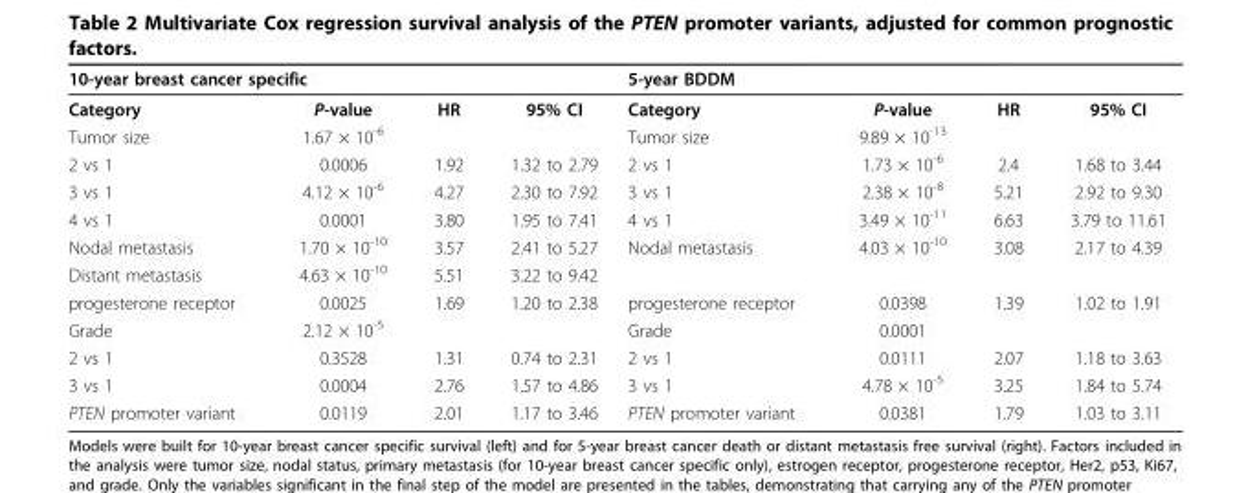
<table><thead><tr><td colspan="2">10-year breast cancer specific</td><td rowspan="2">HR</td><td rowspan="2">95% CI</td><td rowspan="2">5-year BDDM Category</td><td rowspan="2">P-value</td><td rowspan="2">HR</td><td rowspan="2">95% CI</td></tr><tr><td>Category</td><td>P-value</td></tr></thead><tbody><tr><td>Tumor size</td><td>1.67 × 10<sup>-6</sup></td><td></td><td></td><td>Tumor size</td><td>9.89 × 10<sup>-13</sup></td><td></td><td></td></tr><tr><td>2 vs 1</td><td>0.0006</td><td>1.92</td><td>1.32 to 2.79</td><td>2 vs 1</td><td>1.73 × 10<sup>-6</sup></td><td>2.4</td><td>1.68 to 3.44</td></tr><tr><td>3 vs 1</td><td>4.12 × 10<sup>-6</sup></td><td>4.27</td><td>2.30 to 7.92</td><td>3 vs 1</td><td>2.38 × 10<sup>-8</sup></td><td>5.21</td><td>2.92 to 9.30</td></tr><tr><td>4 vs 1</td><td>0.0001</td><td>3.80</td><td>1.95 to 7.41</td><td>4 vs 1</td><td>3.49 × 10<sup>-11</sup></td><td>6.63</td><td>3.79 to 11.61</td></tr><tr><td>Nodal metastasis</td><td>1.70 × 10<sup>-10</sup></td><td>3.57</td><td>2.41 to 5.27</td><td>Nodal metastasis</td><td>4.03 × 10<sup>-10</sup></td><td>3.08</td><td>2.17 to 4.39</td></tr><tr><td>Distant metastasis</td><td>4.63 × 10<sup>-10</sup></td><td>5.51</td><td>3.22 to 9.42</td><td></td><td></td><td></td><td></td></tr><tr><td>progesterone receptor</td><td>0.0025</td><td>1.69</td><td>1.20 to 2.38</td><td>progesterone receptor</td><td>0.0398</td><td>1.39</td><td>1.02 to 1.91</td></tr><tr><td>Grade</td><td>2.12 × 10<sup>-5</sup></td><td></td><td></td><td>Grade</td><td>0.0001</td><td></td><td></td></tr><tr><td>2 vs 1</td><td>0.3528</td><td>1.31</td><td>0.74 to 2.31</td><td>2 vs 1</td><td>0.0111</td><td>2.07</td><td>1.18 to 3.63</td></tr><tr><td>3 vs 1</td><td>0.0004</td><td>2.76</td><td>1.57 to 4.86</td><td>3 vs 1</td><td>4.78 × 10<sup>-5</sup></td><td>3.25</td><td>1.84 to 5.74</td></tr><tr><td>PTEN promoter variant</td><td>0.0119</td><td>2.01</td><td>1.17 to 3.46</td><td>PTEN promoter variant</td><td>0.0381</td><td>1.79</td><td>1.03 to 3.11</td></tr></tbody></table>